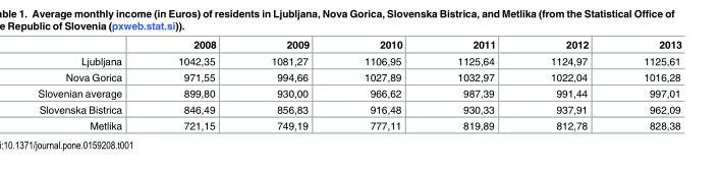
<table><thead><tr><td></td><td>2008</td><td>2009</td><td>2010</td><td>2011</td><td>2012</td><td>2013</td></tr></thead><tbody><tr><td>Ljubljana</td><td>1042,35</td><td>1081,27</td><td>1106,95</td><td>1125,64</td><td>1124,97</td><td>1125,61</td></tr><tr><td>Nova Gorica</td><td>971,55</td><td>994,66</td><td>1027,89</td><td>1032,97</td><td>1022,04</td><td>1016,28</td></tr><tr><td>Slovenian average</td><td>899,80</td><td>930,00</td><td>966,62</td><td>987,39</td><td>991,44</td><td>997,01</td></tr><tr><td>Slovenska Bistrica</td><td>846,49</td><td>856,83</td><td>916,48</td><td>930,33</td><td>937,91</td><td>962,09</td></tr><tr><td>Metlika</td><td>721,15</td><td>749,19</td><td>777,11</td><td>819,89</td><td>812,78</td><td>828,38</td></tr></tbody></table>